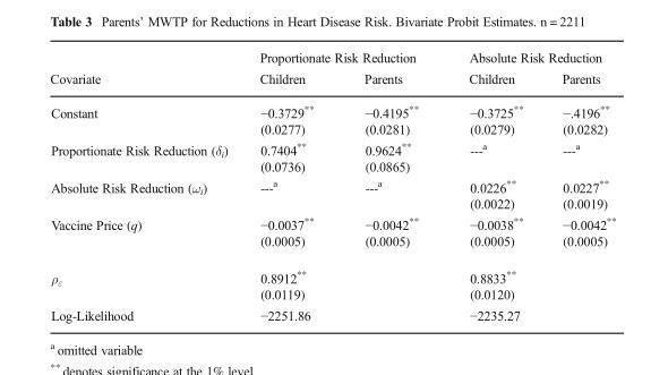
<table><thead><tr><td rowspan="2">Covariate</td><td colspan="2">Proportionate Risk Reduction</td><td colspan="2">Absolute Risk Reduction</td></tr><tr><td>Children</td><td>Parents</td><td>Children</td><td>Parents</td></tr></thead><tbody><tr><td>Constant</td><td>−0.3729** (0.0277)</td><td>−0.4195** (0.0281)</td><td>−0.3725** (0.0279)</td><td>−.4196** (0.0282)</td></tr><tr><td>Proportionate Risk Reduction (δ<sub>i</sub>)</td><td>0.7404** (0.0736)</td><td>0.9624** (0.0865)</td><td>---<sup>a</sup></td><td>---<sup>a</sup></td></tr><tr><td>Absolute Risk Reduction (ω<sub>i</sub>)</td><td>---<sup>a</sup></td><td>---<sup>a</sup></td><td>0.0226** (0.0022)</td><td>0.0227** (0.0019)</td></tr><tr><td>Vaccine Price (q)</td><td>−0.0037** (0.0005)</td><td>−0.0042** (0.0005)</td><td>−0.0038** (0.0005)</td><td>−0.0042** (0.0005)</td></tr><tr><td>ρ<sub>ε</sub></td><td colspan="2">0.8912** (0.0119)</td><td colspan="2">0.8833** (0.0120)</td></tr><tr><td>Log-Likelihood</td><td colspan="2">−2251.86</td><td colspan="2">−2235.27</td></tr></tbody></table>